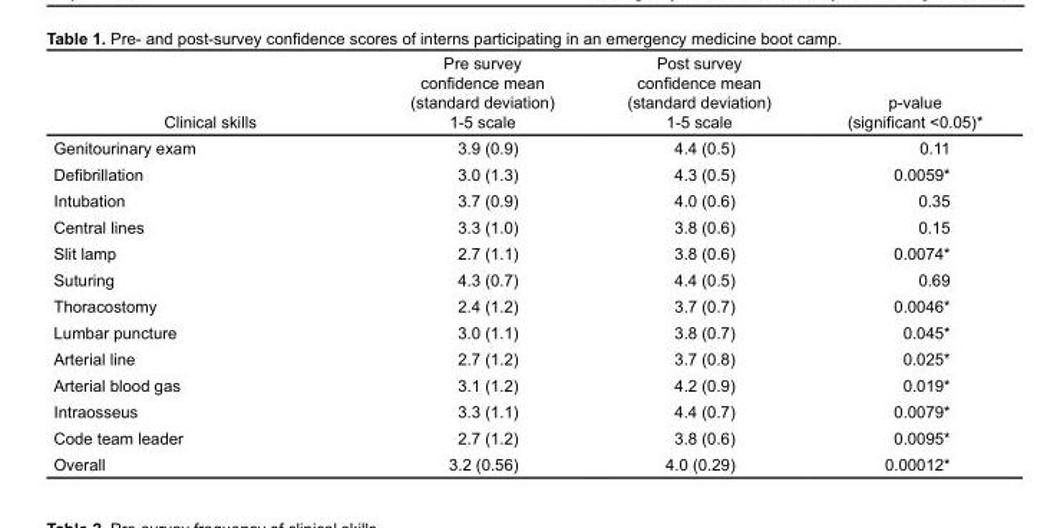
<table><thead><tr><td>Clinical skills</td><td>Pre survey confidence mean (standard deviation) 1-5 scale</td><td>Post survey confidence mean (standard deviation) 1-5 scale</td><td>p-value (significant &lt;0.05)*</td></tr></thead><tbody><tr><td>Genitourinary exam</td><td>3.9 (0.9)</td><td>4.4 (0.5)</td><td>0.11</td></tr><tr><td>Defibrillation</td><td>3.0 (1.3)</td><td>4.3 (0.5)</td><td>0.0059*</td></tr><tr><td>Intubation</td><td>3.7 (0.9)</td><td>4.0 (0.6)</td><td>0.35</td></tr><tr><td>Central lines</td><td>3.3 (1.0)</td><td>3.8 (0.6)</td><td>0.15</td></tr><tr><td>Slit lamp</td><td>2.7 (1.1)</td><td>3.8 (0.6)</td><td>0.0074*</td></tr><tr><td>Suturing</td><td>4.3 (0.7)</td><td>4.4 (0.5)</td><td>0.69</td></tr><tr><td>Thoracostomy</td><td>2.4 (1.2)</td><td>3.7 (0.7)</td><td>0.0046*</td></tr><tr><td>Lumbar puncture</td><td>3.0 (1.1)</td><td>3.8 (0.7)</td><td>0.045*</td></tr><tr><td>Arterial line</td><td>2.7 (1.2)</td><td>3.7 (0.8)</td><td>0.025*</td></tr><tr><td>Arterial blood gas</td><td>3.1 (1.2)</td><td>4.2 (0.9)</td><td>0.019*</td></tr><tr><td>Intraosseus</td><td>3.3 (1.1)</td><td>4.4 (0.7)</td><td>0.0079*</td></tr><tr><td>Code team leader</td><td>2.7 (1.2)</td><td>3.8 (0.6)</td><td>0.0095*</td></tr><tr><td>Overall</td><td>3.2 (0.56)</td><td>4.0 (0.29)</td><td>0.00012*</td></tr></tbody></table>